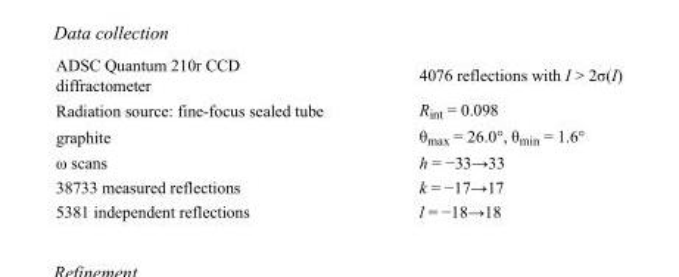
<table><tbody><tr><td>ADSC Quantum 210r CCD diffractometer</td><td>4076 reflections with I &gt; 2σ(I)</td></tr><tr><td>Radiation source: fine-focus sealed tube</td><td>R<sub>int</sub> = 0.098</td></tr><tr><td>graphite</td><td>θ<sub>max</sub> = 26.0°, θ<sub>min</sub> = 1.6°</td></tr><tr><td>ω scans</td><td>h = −33→33</td></tr><tr><td>38733 measured reflections</td><td>k = −17→17</td></tr><tr><td>5381 independent reflections</td><td>l = −18→18</td></tr></tbody></table>